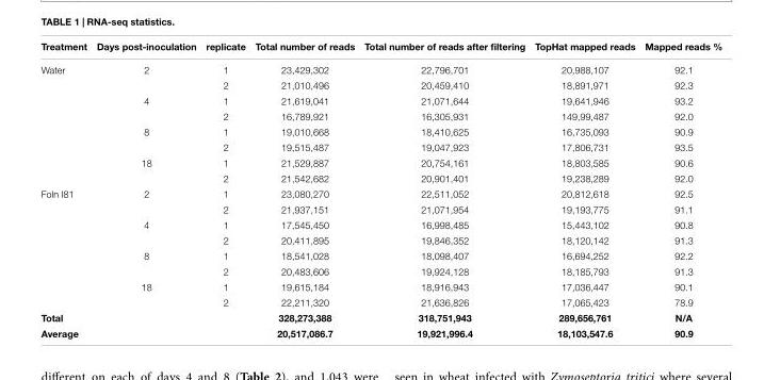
<table><thead><tr><td>Treatment</td><td>Days post-inoculation</td><td>replicate</td><td>Total number of reads</td><td>Total number of reads after filtering</td><td>TopHat mapped reads</td><td>Mapped reads %</td></tr></thead><tbody><tr><td rowspan="8">Water</td><td>2</td><td>1</td><td>23,429,302</td><td>22,796,701</td><td>20,988,107</td><td>92.1</td></tr><tr><td></td><td>2</td><td>21,010,496</td><td>20,459,410</td><td>18,891,971</td><td>92.3</td></tr><tr><td>4</td><td>1</td><td>21,619,041</td><td>21,071,644</td><td>19,641,946</td><td>93.2</td></tr><tr><td></td><td>2</td><td>16,789,921</td><td>16,305,931</td><td>149,99,487</td><td>92.0</td></tr><tr><td>8</td><td>1</td><td>19,010,668</td><td>18,410,625</td><td>16,735,093</td><td>90.9</td></tr><tr><td></td><td>2</td><td>19,515,487</td><td>19,047,923</td><td>17,806,731</td><td>93.5</td></tr><tr><td>18</td><td>1</td><td>21,529,887</td><td>20,754,161</td><td>18,803,585</td><td>90.6</td></tr><tr><td></td><td>2</td><td>21,542,682</td><td>20,901,401</td><td>19,238,289</td><td>92.0</td></tr><tr><td rowspan="8">Foln I81</td><td>2</td><td>1</td><td>23,080,270</td><td>22,511,052</td><td>20,812,618</td><td>92.5</td></tr><tr><td></td><td>2</td><td>21,937,151</td><td>21,071,954</td><td>19,193,775</td><td>91.1</td></tr><tr><td>4</td><td>1</td><td>17,545,450</td><td>16,998,485</td><td>15,443,102</td><td>90.8</td></tr><tr><td></td><td>2</td><td>20,411,895</td><td>19,846,352</td><td>18,120,142</td><td>91.3</td></tr><tr><td>8</td><td>1</td><td>18,541,028</td><td>18,098,407</td><td>16,694,252</td><td>92.2</td></tr><tr><td></td><td>2</td><td>20,483,606</td><td>19,924,128</td><td>18,185,793</td><td>91.3</td></tr><tr><td>18</td><td>1</td><td>19,615,184</td><td>18,916,943</td><td>17,036,447</td><td>90.1</td></tr><tr><td></td><td>2</td><td>22,211,320</td><td>21,636,826</td><td>17,065,423</td><td>78.9</td></tr><tr><td>Total</td><td></td><td></td><td>328,273,388</td><td>318,751,943</td><td>289,656,761</td><td>N/A</td></tr><tr><td>Average</td><td></td><td></td><td>20,517,086.7</td><td>19,921,996.4</td><td>18,103,547.6</td><td>90.9</td></tr></tbody></table>